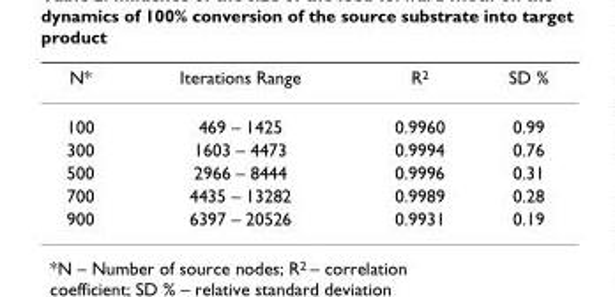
<table><thead><tr><td>N*</td><td>Iterations Range</td><td>R<sup>2</sup></td><td>SD %</td></tr></thead><tbody><tr><td>100</td><td>469 – 1425</td><td>0.9960</td><td>0.99</td></tr><tr><td>300</td><td>1603 – 4473</td><td>0.9994</td><td>0.76</td></tr><tr><td>500</td><td>2966 – 8444</td><td>0.9996</td><td>0.31</td></tr><tr><td>700</td><td>4435 – 13282</td><td>0.9989</td><td>0.28</td></tr><tr><td>900</td><td>6397 – 20526</td><td>0.9931</td><td>0.19</td></tr></tbody></table>